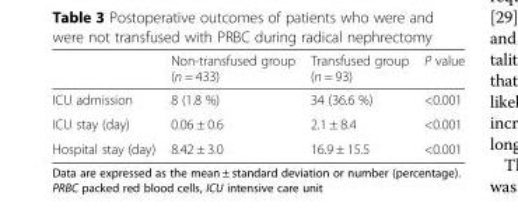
<table><thead><tr><td></td><td>Non-transfused group (n = 433)</td><td>Transfused group (n = 93)</td><td>P value</td></tr></thead><tbody><tr><td>ICU admission</td><td>8 (1.8 %)</td><td>34 (36.6 %)</td><td>&lt;0.001</td></tr><tr><td>ICU stay (day)</td><td>0.06 ± 0.6</td><td>2.1 ± 8.4</td><td>&lt;0.001</td></tr><tr><td>Hospital stay (day)</td><td>8.42 ± 3.0</td><td>16.9 ± 15.5</td><td>&lt;0.001</td></tr></tbody></table>